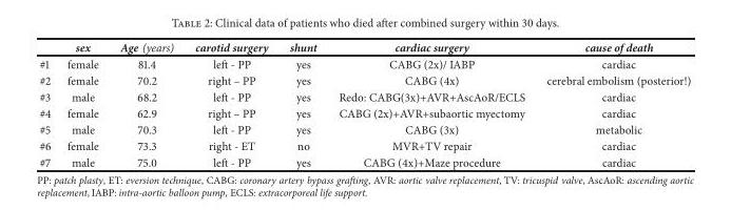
<table><thead><tr><td></td><td>sex</td><td>Age (years)</td><td>carotid surgery</td><td>shunt</td><td>cardiac surgery</td><td>cause of death</td></tr></thead><tbody><tr><td>#1</td><td>female</td><td>81.4</td><td>left - PP</td><td>yes</td><td>CABG (2x)/ IABP</td><td>cardiac</td></tr><tr><td>#2</td><td>female</td><td>70.2</td><td>right – PP</td><td>yes</td><td>CABG (4x)</td><td>cerebral embolism (posterior!)</td></tr><tr><td>#3</td><td>male</td><td>68.2</td><td>left - PP</td><td>yes</td><td>Redo: CABG(3x)+AVR+AscAoR/ECLS</td><td>cardiac</td></tr><tr><td>#4</td><td>female</td><td>62.9</td><td>right – PP</td><td>yes</td><td>CABG (2x)+AVR+subaortic myectomy</td><td>cardiac</td></tr><tr><td>#5</td><td>male</td><td>70.3</td><td>left - PP</td><td>yes</td><td>CABG (3x)</td><td>metabolic</td></tr><tr><td>#6</td><td>female</td><td>73.3</td><td>right - ET</td><td>no</td><td>MVR+TV repair</td><td>cardiac</td></tr><tr><td>#7</td><td>male</td><td>75.0</td><td>left - PP</td><td>yes</td><td>CABG (4x)+Maze procedure</td><td>cardiac</td></tr></tbody></table>